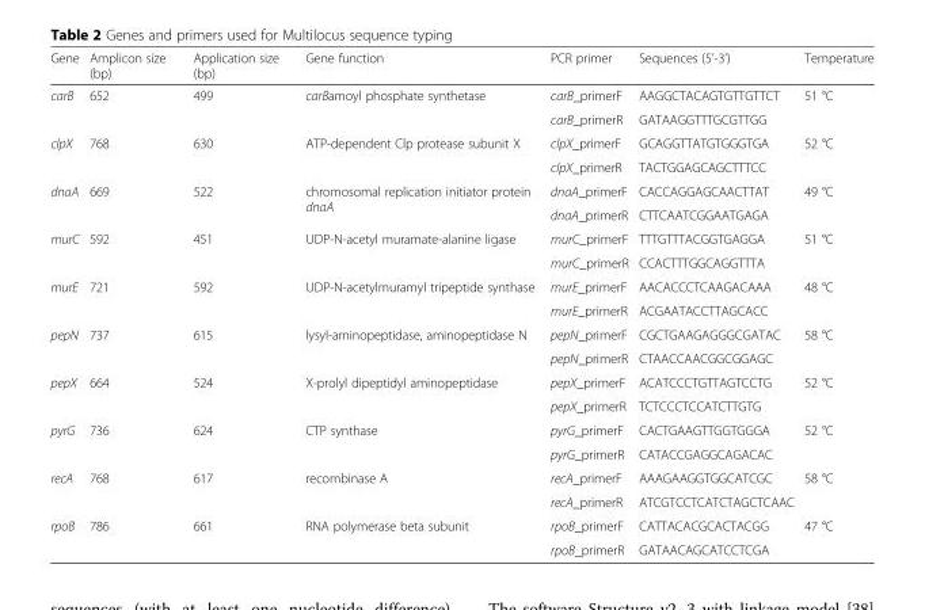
<table><thead><tr><td>Gene</td><td>Amplicon size (bp)</td><td>Application size (bp)</td><td>Gene function</td><td>PCR primer</td><td>Sequences (5’-3’)</td><td>Temperature</td></tr></thead><tbody><tr><td rowspan="2">carB</td><td>652</td><td>499</td><td rowspan="2">carBamoyl phosphate synthetase</td><td>carB_primerF</td><td>AAGGCTACAGTGTTGTTCT</td><td>51 °C</td></tr><tr><td></td><td></td><td>carB_primerR</td><td>GATAAGGTTTGCGTTGG</td><td></td></tr><tr><td rowspan="2">clpX</td><td>768</td><td>630</td><td rowspan="2">ATP-dependent Clp protease subunit X</td><td>clpX_primerF</td><td>GCAGGTTATGTGGGTGA</td><td>52 °C</td></tr><tr><td></td><td></td><td>clpX_primerR</td><td>TACTGGAGCAGCTTTCC</td><td></td></tr><tr><td rowspan="2">dnaA</td><td>669</td><td>522</td><td rowspan="2">chromosomal replication initiator protein dnaA</td><td>dnaA_primerF</td><td>CACCAGGAGCAACTTAT</td><td>49 °C</td></tr><tr><td></td><td></td><td>dnaA_primerR</td><td>CTTCAATCGGAATGAGA</td><td></td></tr><tr><td rowspan="2">murC</td><td>592</td><td>451</td><td rowspan="2">UDP-N-acetyl muramate-alanine ligase</td><td>murC_primerF</td><td>TTTGTTTACGGTGAGGA</td><td>51 °C</td></tr><tr><td></td><td></td><td>murC_primerR</td><td>CCACTTTGGCAGGTTTA</td><td></td></tr><tr><td rowspan="2">murE</td><td>721</td><td>592</td><td rowspan="2">UDP-N-acetylmuramyl tripeptide synthase</td><td>murE_primerF</td><td>AACACCCTCAAGACAAA</td><td>48 °C</td></tr><tr><td></td><td></td><td>murE_primerR</td><td>ACGAATACCTTAGCACC</td><td></td></tr><tr><td rowspan="2">pepN</td><td>737</td><td>615</td><td rowspan="2">lysyl-aminopeptidase, aminopeptidase N</td><td>pepN_primerF</td><td>CGCTGAAGAGGGCGATAC</td><td>58 °C</td></tr><tr><td></td><td></td><td>pepN_primerR</td><td>CTAACCAACGGCGGAGC</td><td></td></tr><tr><td rowspan="2">pepX</td><td>664</td><td>524</td><td rowspan="2">X-prolyl dipeptidyl aminopeptidase</td><td>pepX_primerF</td><td>ACATCCCTGTTAGTCCTG</td><td>52 °C</td></tr><tr><td></td><td></td><td>pepX_primerR</td><td>TCTCCCTCCATCTTGTG</td><td></td></tr><tr><td rowspan="2">pyrG</td><td>736</td><td>624</td><td rowspan="2">CTP synthase</td><td>pyrG_primerF</td><td>CACTGAAGTTGGTGGGA</td><td>52 °C</td></tr><tr><td></td><td></td><td>pyrG_primerR</td><td>CATACCGAGGCAGACAC</td><td></td></tr><tr><td rowspan="2">recA</td><td>768</td><td>617</td><td>recombinase A</td><td>recA_primerF</td><td>AAAGAAGGTGGCATCGC</td><td>58 °C</td></tr><tr><td></td><td></td><td></td><td>recA_primerR</td><td>ATCGTCCTCATCTAGCTCAAC</td><td></td></tr><tr><td rowspan="2">rpoB</td><td>786</td><td>661</td><td>RNA polymerase beta subunit</td><td>rpoB_primerF</td><td>CATTACACGCACTACGG</td><td>47 °C</td></tr><tr><td></td><td></td><td></td><td>rpoB_primerR</td><td>GATAACAGCATCCTCGA</td><td></td></tr></tbody></table>